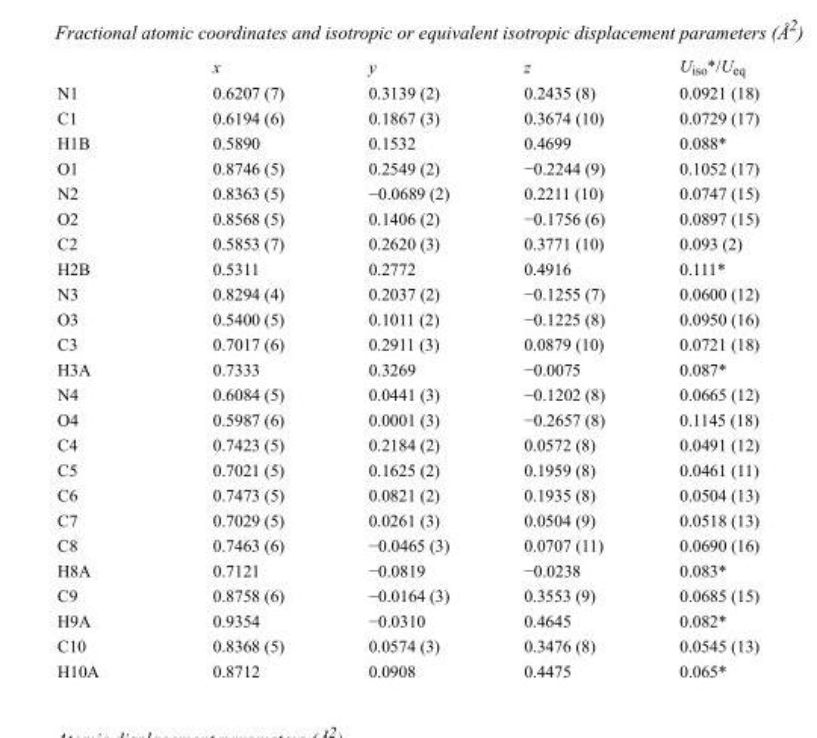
<table><thead><tr><td></td><td>x</td><td>y</td><td>z</td><td>U<sub>iso</sub>*/U<sub>eq</sub></td></tr></thead><tbody><tr><td>N1</td><td>0.6207 (7)</td><td>0.3139 (2)</td><td>0.2435 (8)</td><td>0.0921 (18)</td></tr><tr><td>C1</td><td>0.6194 (6)</td><td>0.1867 (3)</td><td>0.3674 (10)</td><td>0.0729 (17)</td></tr><tr><td>H1B</td><td>0.5890</td><td>0.1532</td><td>0.4699</td><td>0.088*</td></tr><tr><td>O1</td><td>0.8746 (5)</td><td>0.2549 (2)</td><td>−0.2244 (9)</td><td>0.1052 (17)</td></tr><tr><td>N2</td><td>0.8363 (5)</td><td>−0.0689 (2)</td><td>0.2211 (10)</td><td>0.0747 (15)</td></tr><tr><td>O2</td><td>0.8568 (5)</td><td>0.1406 (2)</td><td>−0.1756 (6)</td><td>0.0897 (15)</td></tr><tr><td>C2</td><td>0.5853 (7)</td><td>0.2620 (3)</td><td>0.3771 (10)</td><td>0.093 (2)</td></tr><tr><td>H2B</td><td>0.5311</td><td>0.2772</td><td>0.4916</td><td>0.111*</td></tr><tr><td>N3</td><td>0.8294 (4)</td><td>0.2037 (2)</td><td>−0.1255 (7)</td><td>0.0600 (12)</td></tr><tr><td>O3</td><td>0.5400 (5)</td><td>0.1011 (2)</td><td>−0.1225 (8)</td><td>0.0950 (16)</td></tr><tr><td>C3</td><td>0.7017 (6)</td><td>0.2911 (3)</td><td>0.0879 (10)</td><td>0.0721 (18)</td></tr><tr><td>H3A</td><td>0.7333</td><td>0.3269</td><td>−0.0075</td><td>0.087*</td></tr><tr><td>N4</td><td>0.6084 (5)</td><td>0.0441 (3)</td><td>−0.1202 (8)</td><td>0.0665 (12)</td></tr><tr><td>O4</td><td>0.5987 (6)</td><td>0.0001 (3)</td><td>−0.2657 (8)</td><td>0.1145 (18)</td></tr><tr><td>C4</td><td>0.7423 (5)</td><td>0.2184 (2)</td><td>0.0572 (8)</td><td>0.0491 (12)</td></tr><tr><td>C5</td><td>0.7021 (5)</td><td>0.1625 (2)</td><td>0.1959 (8)</td><td>0.0461 (11)</td></tr><tr><td>C6</td><td>0.7473 (5)</td><td>0.0821 (2)</td><td>0.1935 (8)</td><td>0.0504 (13)</td></tr><tr><td>C7</td><td>0.7029 (5)</td><td>0.0261 (3)</td><td>0.0504 (9)</td><td>0.0518 (13)</td></tr><tr><td>C8</td><td>0.7463 (6)</td><td>−0.0465 (3)</td><td>0.0707 (11)</td><td>0.0690 (16)</td></tr><tr><td>H8A</td><td>0.7121</td><td>−0.0819</td><td>−0.0238</td><td>0.083*</td></tr><tr><td>C9</td><td>0.8758 (6)</td><td>−0.0164 (3)</td><td>0.3553 (9)</td><td>0.0685 (15)</td></tr><tr><td>H9A</td><td>0.9354</td><td>−0.0310</td><td>0.4645</td><td>0.082*</td></tr><tr><td>C10</td><td>0.8368 (5)</td><td>0.0574 (3)</td><td>0.3476 (8)</td><td>0.0545 (13)</td></tr><tr><td>H10A</td><td>0.8712</td><td>0.0908</td><td>0.4475</td><td>0.065*</td></tr></tbody></table>